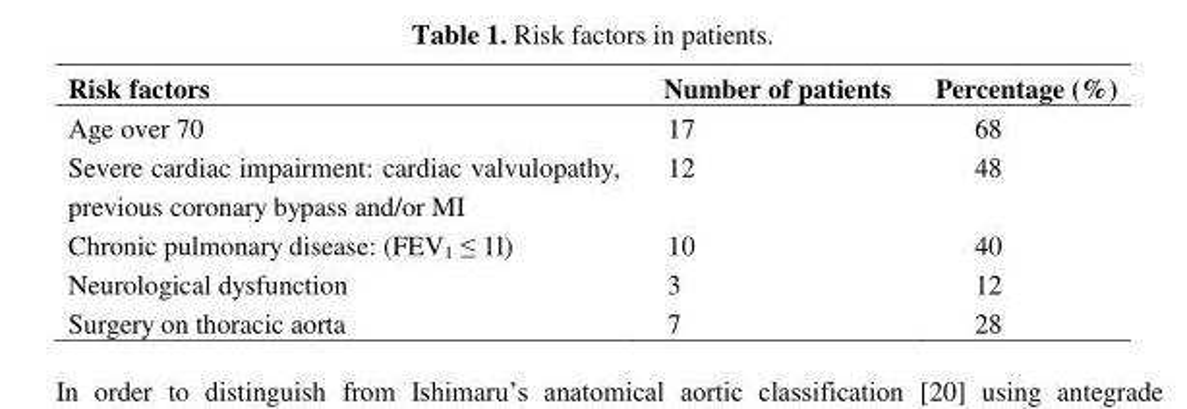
<table><thead><tr><td>Risk factors</td><td>Number of patients</td><td>Percentage (%)</td></tr></thead><tbody><tr><td>Age over 70</td><td>17</td><td>68</td></tr><tr><td>Severe cardiac impairment: cardiac valvulopathy, previous coronary bypass and/or MI</td><td>12</td><td>48</td></tr><tr><td>Chronic pulmonary disease: (FEV1 ≤ 1l)</td><td>10</td><td>40</td></tr><tr><td>Neurological dysfunction</td><td>3</td><td>12</td></tr><tr><td>Surgery on thoracic aorta</td><td>7</td><td>28</td></tr></tbody></table>